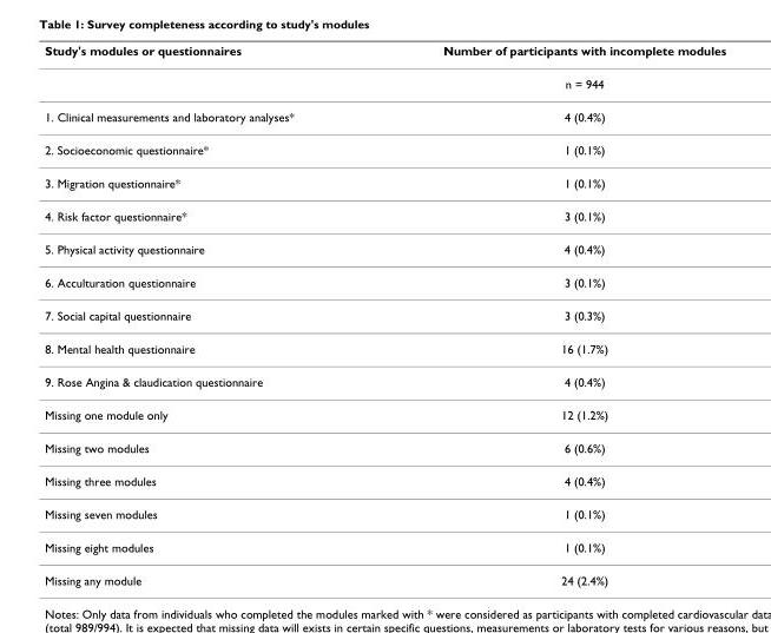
<table><thead><tr><td>Study&#x27;s modules or questionnaires</td><td>Number of participants with incomplete modules</td></tr></thead><tbody><tr><td></td><td>n = 944</td></tr><tr><td>1. Clinical measurements and laboratory analyses*</td><td>4 (0.4%)</td></tr><tr><td>2. Socioeconomic questionnaire*</td><td>1 (0.1%)</td></tr><tr><td>3. Migration questionnaire*</td><td>1 (0.1%)</td></tr><tr><td>4. Risk factor questionnaire*</td><td>3 (0.1%)</td></tr><tr><td>5. Physical activity questionnaire</td><td>4 (0.4%)</td></tr><tr><td>6. Acculturation questionnaire</td><td>3 (0.1%)</td></tr><tr><td>7. Social capital questionnaire</td><td>3 (0.3%)</td></tr><tr><td>8. Mental health questionnaire</td><td>16 (1.7%)</td></tr><tr><td>9. Rose Angina &amp; claudication questionnaire</td><td>4 (0.4%)</td></tr><tr><td>Missing one module only</td><td>12 (1.2%)</td></tr><tr><td>Missing two modules</td><td>6 (0.6%)</td></tr><tr><td>Missing three modules</td><td>4 (0.4%)</td></tr><tr><td>Missing seven modules</td><td>1 (0.1%)</td></tr><tr><td>Missing eight modules</td><td>1 (0.1%)</td></tr><tr><td>Missing any module</td><td>24 (2.4%)</td></tr></tbody></table>